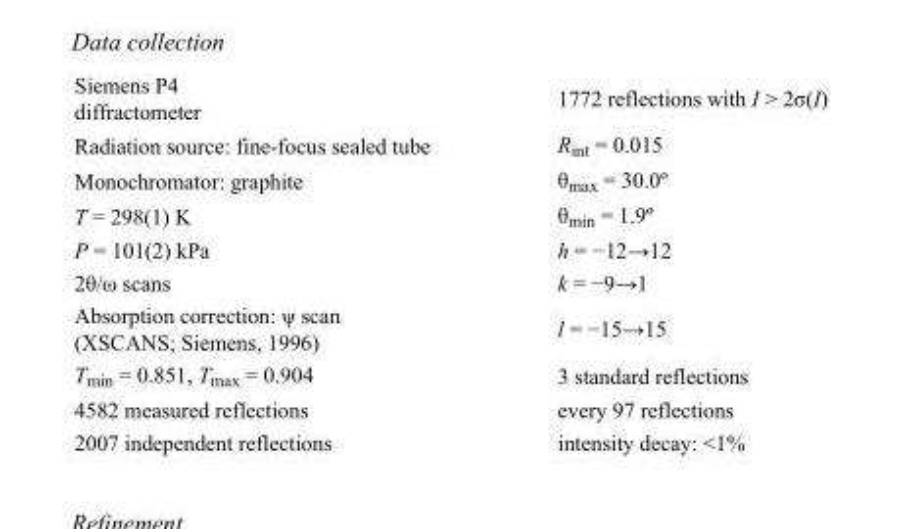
<table><tbody><tr><td>Siemens P4 diffractometer</td><td>1772 reflections with I &gt; 2σ(I)</td></tr><tr><td>Radiation source: fine-focus sealed tube</td><td>R<sub>int</sub> = 0.015</td></tr><tr><td>Monochromator: graphite</td><td>θ<sub>max</sub> = 30.0º</td></tr><tr><td>T = 298(1) K</td><td>θ<sub>min</sub> = 1.9º</td></tr><tr><td>P = 101(2) kPa</td><td>h = −12→12</td></tr><tr><td>2θ/ω scans</td><td>k = −9→1</td></tr><tr><td>Absorption correction: ψ scan (XSCANS; Siemens, 1996)</td><td>l = −15→15</td></tr><tr><td>T<sub>min</sub> = 0.851, T<sub>max</sub> = 0.904</td><td>3 standard reflections</td></tr><tr><td>4582 measured reflections</td><td>every 97 reflections</td></tr><tr><td>2007 independent reflections</td><td>intensity decay: &lt;1%</td></tr></tbody></table>